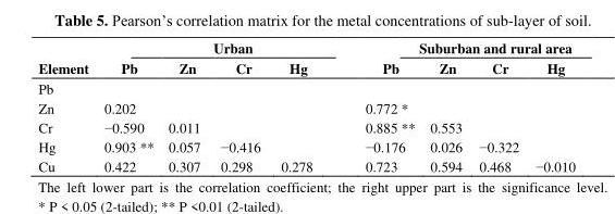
<table><thead><tr><td rowspan="2">Element</td><td colspan="4">Urban</td><td colspan="4">Suburban and rural area</td></tr><tr><td>Pb</td><td>Zn</td><td>Cr</td><td>Hg</td><td>Pb</td><td>Zn</td><td>Cr</td><td>Hg</td></tr></thead><tbody><tr><td colspan="9">Pb</td></tr><tr><td>Zn</td><td>0.202</td><td></td><td></td><td></td><td>0.772 *</td><td></td><td></td><td></td></tr><tr><td>Cr</td><td>−0.590</td><td>0.011</td><td></td><td></td><td>0.885 **</td><td>0.553</td><td></td><td></td></tr><tr><td>Hg</td><td>0.903 **</td><td>0.057</td><td>−0.416</td><td></td><td>−0.176</td><td>0.026</td><td>−0.322</td><td></td></tr><tr><td>Cu</td><td>0.422</td><td>0.307</td><td>0.298</td><td>0.278</td><td>0.723</td><td>0.594</td><td>0.468</td><td>−0.010</td></tr></tbody></table>